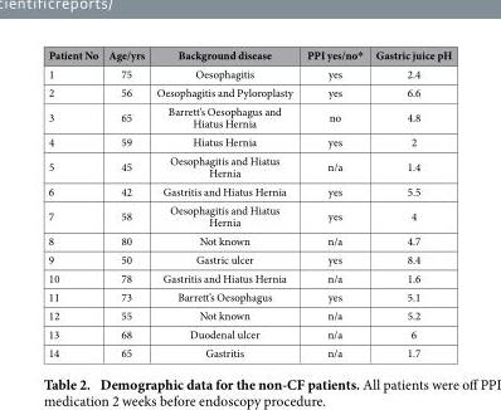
<table><thead><tr><td>Patient No</td><td>Age/yrs</td><td>Background disease</td><td>PPI yes/no*</td><td>Gastric juice pH</td></tr></thead><tbody><tr><td>1</td><td>75</td><td>Oesophagitis</td><td>yes</td><td>2.4</td></tr><tr><td>2</td><td>56</td><td>Oesophagitis and Pyloroplasty</td><td>yes</td><td>6.6</td></tr><tr><td>3</td><td>65</td><td>Barrett’s Oesophagus and Hiatus Hernia</td><td>no</td><td>4.8</td></tr><tr><td>4</td><td>59</td><td>Hiatus Hernia</td><td>yes</td><td>2</td></tr><tr><td>5</td><td>45</td><td>Oesophagitis and Hiatus Hernia</td><td>n/a</td><td>1.4</td></tr><tr><td>6</td><td>42</td><td>Gastritis and Hiatus Hernia</td><td>yes</td><td>5.5</td></tr><tr><td>7</td><td>58</td><td>Oesophagitis and Hiatus Hernia</td><td>yes</td><td>4</td></tr><tr><td>8</td><td>80</td><td>Not known</td><td>n/a</td><td>4.7</td></tr><tr><td>9</td><td>50</td><td>Gastric ulcer</td><td>yes</td><td>8.4</td></tr><tr><td>10</td><td>78</td><td>Gastritis and Hiatus Hernia</td><td>n/a</td><td>1.6</td></tr><tr><td>11</td><td>73</td><td>Barrett’s Oesophagus</td><td>yes</td><td>5.1</td></tr><tr><td>12</td><td>55</td><td>Not known</td><td>n/a</td><td>5.2</td></tr><tr><td>13</td><td>68</td><td>Duodenal ulcer</td><td>n/a</td><td>6</td></tr><tr><td>14</td><td>65</td><td>Gastritis</td><td>n/a</td><td>1.7</td></tr></tbody></table>